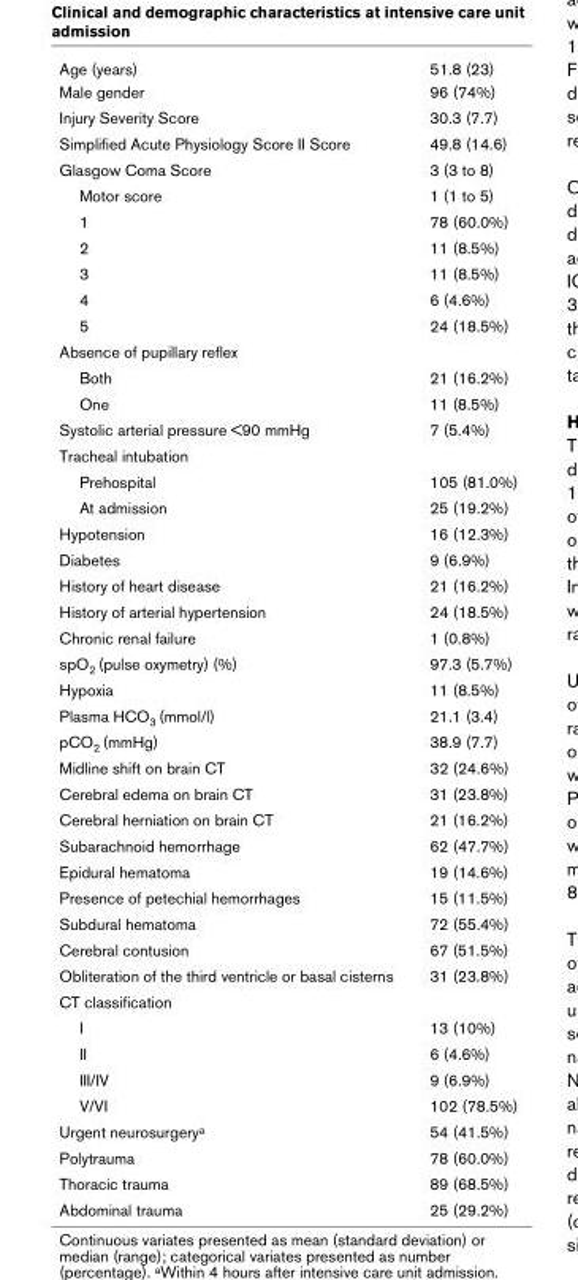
<table><tbody><tr><td>Age (years)</td><td>51.8 (23)</td></tr><tr><td>Male gender</td><td>96 (74%)</td></tr><tr><td>Injury Severity Score</td><td>30.3 (7.7)</td></tr><tr><td>Simplified Acute Physiology Score II Score</td><td>49.8 (14.6)</td></tr><tr><td>Glasgow Coma Score</td><td>3 (3 to 8)</td></tr><tr><td>Motor score</td><td>1 (1 to 5)</td></tr><tr><td>1</td><td>78 (60.0%)</td></tr><tr><td>2</td><td>11 (8.5%)</td></tr><tr><td>3</td><td>11 (8.5%)</td></tr><tr><td>4</td><td>6 (4.6%)</td></tr><tr><td>5</td><td>24 (18.5%)</td></tr><tr><td colspan="2">Absence of pupillary reflex</td></tr><tr><td>Both</td><td>21 (16.2%)</td></tr><tr><td>One</td><td>11 (8.5%)</td></tr><tr><td>Systolic arterial pressure &lt;90 mmHg</td><td>7 (5.4%)</td></tr><tr><td colspan="2">Tracheal intubation</td></tr><tr><td>Prehospital</td><td>105 (81.0%)</td></tr><tr><td>At admission</td><td>25 (19.2%)</td></tr><tr><td>Hypotension</td><td>16 (12.3%)</td></tr><tr><td>Diabetes</td><td>9 (6.9%)</td></tr><tr><td>History of heart disease</td><td>21 (16.2%)</td></tr><tr><td>History of arterial hypertension</td><td>24 (18.5%)</td></tr><tr><td>Chronic renal failure</td><td>1 (0.8%)</td></tr><tr><td>spO<sub>2</sub> (pulse oxymetry) (%)</td><td>97.3 (5.7%)</td></tr><tr><td>Hypoxia</td><td>11 (8.5%)</td></tr><tr><td>Plasma HCO<sub>3</sub> (mmol/l)</td><td>21.1 (3.4)</td></tr><tr><td>pCO<sub>2</sub> (mmHg)</td><td>38.9 (7.7)</td></tr><tr><td>Midline shift on brain CT</td><td>32 (24.6%)</td></tr><tr><td>Cerebral edema on brain CT</td><td>31 (23.8%)</td></tr><tr><td>Cerebral herniation on brain CT</td><td>21 (16.2%)</td></tr><tr><td>Subarachnoid hemorrhage</td><td>62 (47.7%)</td></tr><tr><td>Epidural hematoma</td><td>19 (14.6%)</td></tr><tr><td>Presence of petechial hemorrhages</td><td>15 (11.5%)</td></tr><tr><td>Subdural hematoma</td><td>72 (55.4%)</td></tr><tr><td>Cerebral contusion</td><td>67 (51.5%)</td></tr><tr><td>Obliteration of the third ventricle or basal cisterns</td><td>31 (23.8%)</td></tr><tr><td colspan="2">CT classification</td></tr><tr><td>I</td><td>13 (10%)</td></tr><tr><td>II</td><td>6 (4.6%)</td></tr><tr><td>III/IV</td><td>9 (6.9%)</td></tr><tr><td>V/VI</td><td>102 (78.5%)</td></tr><tr><td>Urgent neurosurgery<sup>a</sup></td><td>54 (41.5%)</td></tr><tr><td>Polytrauma</td><td>78 (60.0%)</td></tr><tr><td>Thoracic trauma</td><td>89 (68.5%)</td></tr><tr><td>Abdominal trauma</td><td>25 (29.2%)</td></tr></tbody></table>